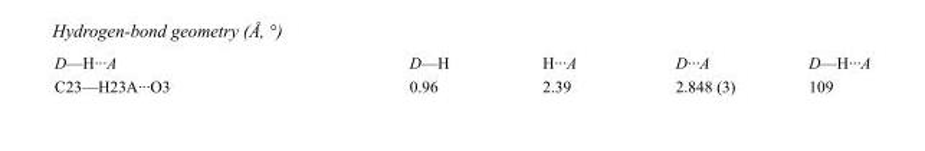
<table><tbody><tr><td>D—H···A</td><td>D—H</td><td>H···A</td><td>D···A</td><td>D—H···A</td></tr><tr><td>C23—H23A···O3</td><td>0.96</td><td>2.39</td><td>2.848 (3)</td><td>109</td></tr></tbody></table>